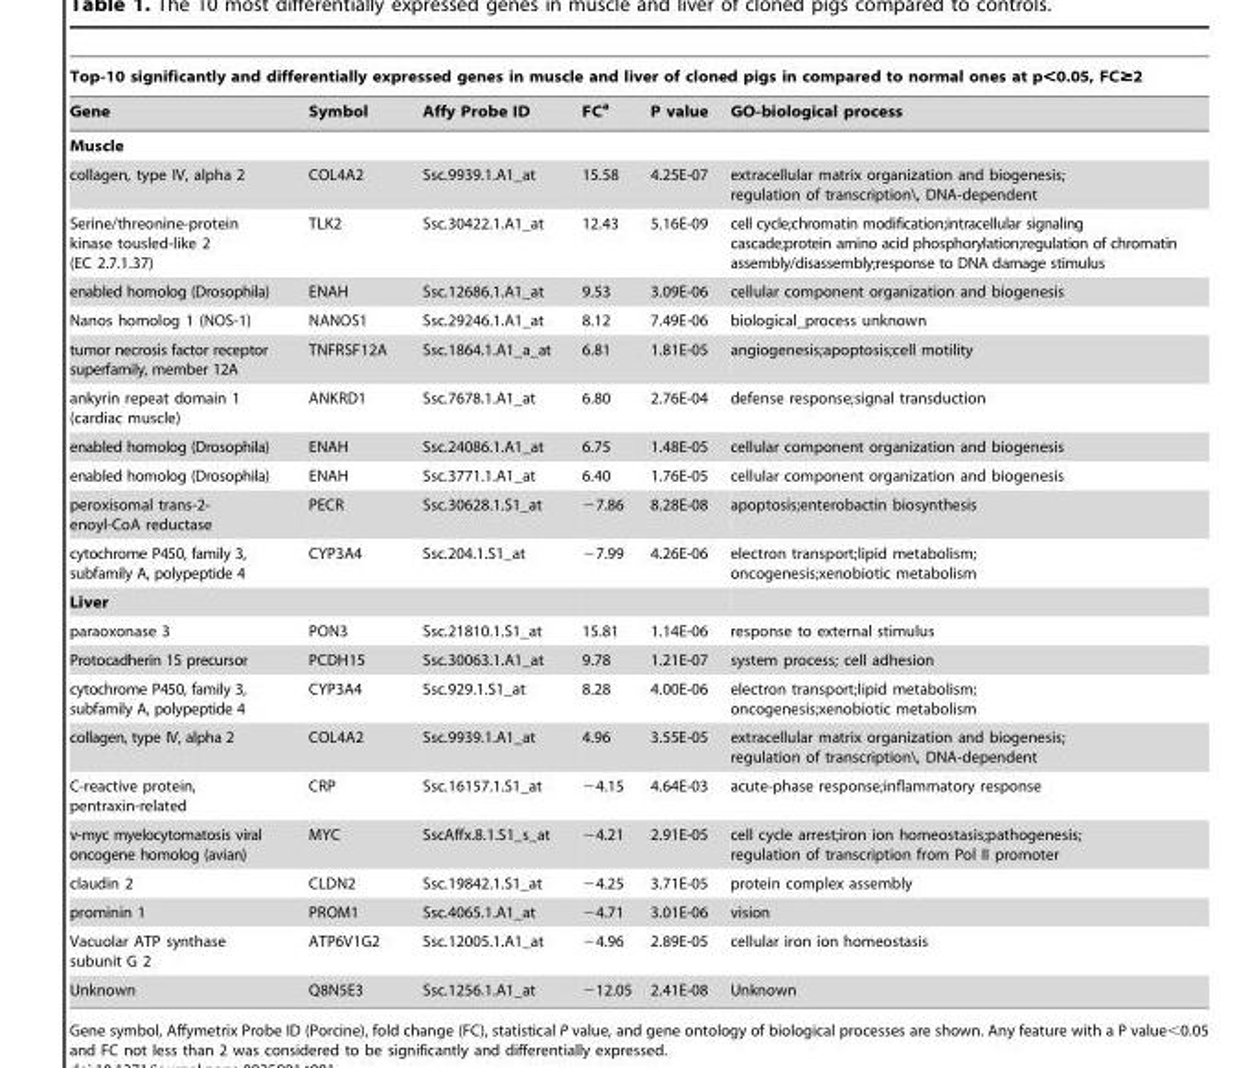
<table><thead><tr><td colspan="6">Top-10 significantly and differentially expressed genes in muscle and liver of cloned pigs in compared to normal ones at p&lt;0.05, FC≥2</td></tr><tr><td>Gene</td><td>Symbol</td><td>Affy Probe ID</td><td>FC<sup>a</sup></td><td>P value</td><td>GO-biological process</td></tr></thead><tbody><tr><td colspan="6">Muscle</td></tr><tr><td>collagen, type IV, alpha 2</td><td>COL4A2</td><td>Ssc.9939.1.A1_at</td><td>15.58</td><td>4.25E-07</td><td>extracellular matrix organization and biogenesis; regulation of transcription\, DNA-dependent</td></tr><tr><td>Serine/threonine-protein kinase tousled-like 2 (EC 2.7.1.37)</td><td>TLK2</td><td>Ssc.30422.1.A1_at</td><td>12.43</td><td>5.16E-09</td><td>cell cycle;chromatin modification;intracellular signaling cascade;protein amino acid phosphorylation;regulation of chromatin assembly/disassembly;response to DNA damage stimulus</td></tr><tr><td>enabled homolog (Drosophila)</td><td>ENAH</td><td>Ssc.12686.1.A1_at</td><td>9.53</td><td>3.09E-06</td><td>cellular component organization and biogenesis</td></tr><tr><td>Nanos homolog 1 (NOS-1)</td><td>NANOS1</td><td>Ssc.29246.1.A1_at</td><td>8.12</td><td>7.49E-06</td><td>biological_process unknown</td></tr><tr><td>tumor necrosis factor receptor superfamily, member 12A</td><td>TNFRSF12A</td><td>Ssc.1864.1.A1_a_at</td><td>6.81</td><td>1.81E-05</td><td>angiogenesis;apoptosis;cell motility</td></tr><tr><td>ankyrin repeat domain 1 (cardiac muscle)</td><td>ANKRD1</td><td>Ssc.7678.1.A1_at</td><td>6.80</td><td>2.76E-04</td><td>defense response;signal transduction</td></tr><tr><td>enabled homolog (Drosophila)</td><td>ENAH</td><td>Ssc.24086.1.A1_at</td><td>6.75</td><td>1.48E-05</td><td>cellular component organization and biogenesis</td></tr><tr><td>enabled homolog (Drosophila)</td><td>ENAH</td><td>Ssc.3771.1.A1_at</td><td>6.40</td><td>1.76E-05</td><td>cellular component organization and biogenesis</td></tr><tr><td>peroxisomal trans-2- enoyl-CoA reductase</td><td>PECR</td><td>Ssc.30628.1.S1_at</td><td>−7.86</td><td>8.28E-08</td><td>apoptosis;enterobactin biosynthesis</td></tr><tr><td>cytochrome P450, family 3, subfamily A, polypeptide 4</td><td>CYP3A4</td><td>Ssc.204.1.S1_at</td><td>−7.99</td><td>4.26E-06</td><td>electron transport;lipid metabolism; oncogenesis;xenobiotic metabolism</td></tr><tr><td colspan="6">Liver</td></tr><tr><td>paraoxonase 3</td><td>PON3</td><td>Ssc.21810.1.S1_at</td><td>15.81</td><td>1.14E-06</td><td>response to external stimulus</td></tr><tr><td>Protocadherin 15 precursor</td><td>PCDH15</td><td>Ssc.30063.1.A1_at</td><td>9.78</td><td>1.21E-07</td><td>system process; cell adhesion</td></tr><tr><td>cytochrome P450, family 3, subfamily A, polypeptide 4</td><td>CYP3A4</td><td>Ssc.929.1.S1_at</td><td>8.28</td><td>4.00E-06</td><td>electron transport;lipid metabolism; oncogenesis;xenobiotic metabolism</td></tr><tr><td>collagen, type IV, alpha 2</td><td>COL4A2</td><td>Ssc.9939.1.A1_at</td><td>4.96</td><td>3.55E-05</td><td>extracellular matrix organization and biogenesis; regulation of transcription\, DNA-dependent</td></tr><tr><td>C-reactive protein, pentraxin-related</td><td>CRP</td><td>Ssc.16157.1.S1_at</td><td>−4.15</td><td>4.64E-03</td><td>acute-phase response;inflammatory response</td></tr><tr><td>v-myc myelocytomatosis viral oncogene homolog (avian)</td><td>MYC</td><td>SscAffx.8.1.S1_s_at</td><td>−4.21</td><td>2.91E-05</td><td>cell cycle arrest;iron ion homeostasis;pathogenesis; regulation of transcription from Pol II promoter</td></tr><tr><td>claudin 2</td><td>CLDN2</td><td>Ssc.19842.1.S1_at</td><td>−4.25</td><td>3.71E-05</td><td>protein complex assembly</td></tr><tr><td>prominin 1</td><td>PROM1</td><td>Ssc.4065.1.A1_at</td><td>−4.71</td><td>3.01E-06</td><td>vision</td></tr><tr><td>Vacuolar ATP synthase subunit G 2</td><td>ATP6V1G2</td><td>Ssc.12005.1.A1_at</td><td>−4.96</td><td>2.89E-05</td><td>cellular iron ion homeostasis</td></tr><tr><td>Unknown</td><td>Q8N5E3</td><td>Ssc.1256.1.A1_at</td><td>−12.05</td><td>2.41E-08</td><td>Unknown</td></tr></tbody></table>